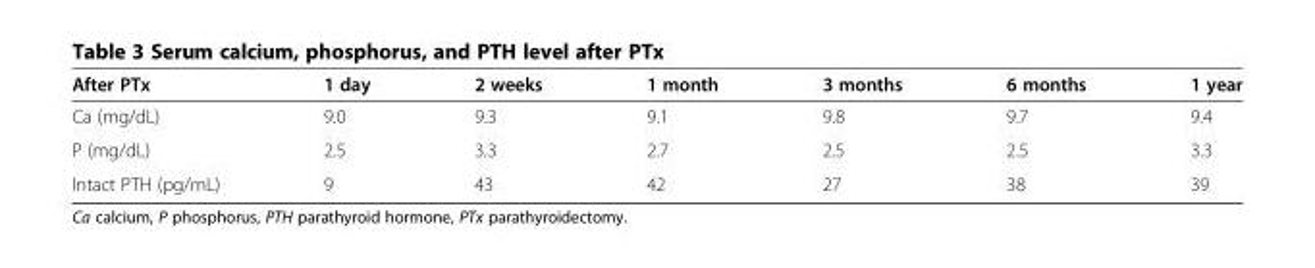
<table><thead><tr><td>After PTx</td><td>1 day</td><td>2 weeks</td><td>1 month</td><td>3 months</td><td>6 months</td><td>1 year</td></tr></thead><tbody><tr><td>Ca (mg/dL)</td><td>9.0</td><td>9.3</td><td>9.1</td><td>9.8</td><td>9.7</td><td>9.4</td></tr><tr><td>P (mg/dL)</td><td>2.5</td><td>3.3</td><td>2.7</td><td>2.5</td><td>2.5</td><td>3.3</td></tr><tr><td>Intact PTH (pg/mL)</td><td>9</td><td>43</td><td>42</td><td>27</td><td>38</td><td>39</td></tr></tbody></table>